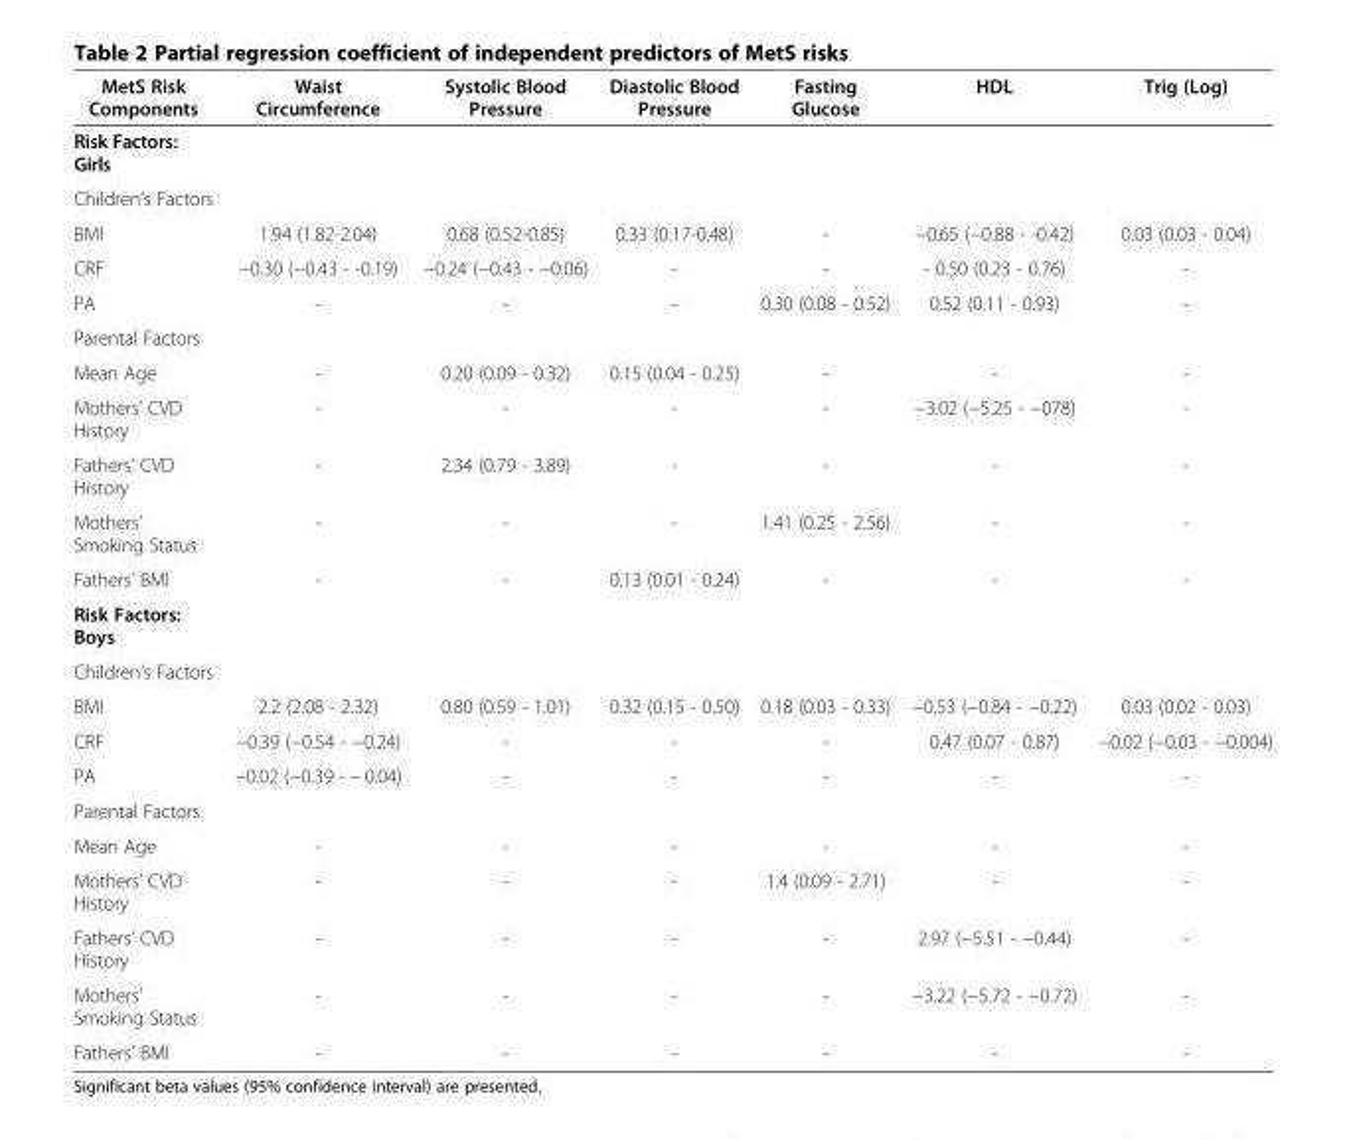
<table><thead><tr><td>MetS Risk Components</td><td>Waist Circumference</td><td>Systolic Blood Pressure</td><td>Diastolic Blood Pressure</td><td>Fasting Glucose</td><td>HDL</td><td>Trig (Log)</td></tr></thead><tbody><tr><td colspan="7">Risk Factors: Girls</td></tr><tr><td colspan="7">Children’s Factors</td></tr><tr><td>BMI</td><td>1.94 (1.82-2.04)</td><td>0.68 (0.52-0.85)</td><td>0.33 (0.17-0.48)</td><td>-</td><td>−0.65 (−0.88 - -0.42)</td><td>0.03 (0.03 - 0.04)</td></tr><tr><td>CRF</td><td>−0.30 (−0.43 - -0.19)</td><td>−0.24 (−0.43 - −0.06)</td><td>-</td><td>-</td><td>- 0.50 (0.23 - 0.76)</td><td>-</td></tr><tr><td>PA</td><td>-</td><td>-</td><td>-</td><td>0.30 (0.08 - 0.52)</td><td>0.52 (0.11 - 0.93)</td><td>-</td></tr><tr><td colspan="7">Parental Factors</td></tr><tr><td>Mean Age</td><td>-</td><td>0.20 (0.09 - 0.32)</td><td>0.15 (0.04 - 0.25)</td><td>-</td><td>-</td><td>-</td></tr><tr><td>Mothers’ CVD History</td><td>-</td><td>-</td><td>-</td><td>-</td><td>−3.02 (−5.25 - −078)</td><td>-</td></tr><tr><td>Fathers’ CVD History</td><td>-</td><td>2.34 (0.79 - 3.89)</td><td>-</td><td>-</td><td>-</td><td>-</td></tr><tr><td>Mothers’ Smoking Status</td><td>-</td><td>-</td><td>-</td><td>1.41 (0.25 - 2.56)</td><td>-</td><td>-</td></tr><tr><td>Fathers’ BMI</td><td>-</td><td>-</td><td>0.13 (0.01 - 0.24)</td><td>-</td><td>-</td><td>-</td></tr><tr><td colspan="7">Risk Factors: Boys</td></tr><tr><td colspan="7">Children’s Factors</td></tr><tr><td>BMI</td><td>2.2 (2.08 - 2.32)</td><td>0.80 (0.59 - 1.01)</td><td>0.32 (0.15 - 0.50)</td><td>0.18 (0.03 - 0.33)</td><td>−0.53 (−0.84 - −0.22)</td><td>0.03 (0.02 - 0.03)</td></tr><tr><td>CRF</td><td>−0.39 (−0.54 - −0.24)</td><td>-</td><td>-</td><td>-</td><td>0.47 (0.07 - 0.87)</td><td>−0.02 (−0.03 - −0.004)</td></tr><tr><td>PA</td><td>−0.02 (−0.39 - − 0.04)</td><td>-</td><td>-</td><td>-</td><td>-</td><td>-</td></tr><tr><td colspan="7">Parental Factors</td></tr><tr><td>Mean Age</td><td>-</td><td>-</td><td>-</td><td>-</td><td>-</td><td>-</td></tr><tr><td>Mothers’ CVD History</td><td>-</td><td>-</td><td>-</td><td>1.4 (0.09 - 2.71)</td><td>-</td><td>-</td></tr><tr><td>Fathers’ CVD History</td><td>-</td><td>-</td><td>-</td><td>-</td><td>2.97 (−5.51 - −0.44)</td><td>-</td></tr><tr><td>Mothers’ Smoking Status</td><td>-</td><td>-</td><td>-</td><td>-</td><td>−3.22 (−5.72 - −0.72)</td><td>-</td></tr><tr><td>Fathers’ BMI</td><td>-</td><td>-</td><td>-</td><td>-</td><td>-</td><td>-</td></tr></tbody></table>